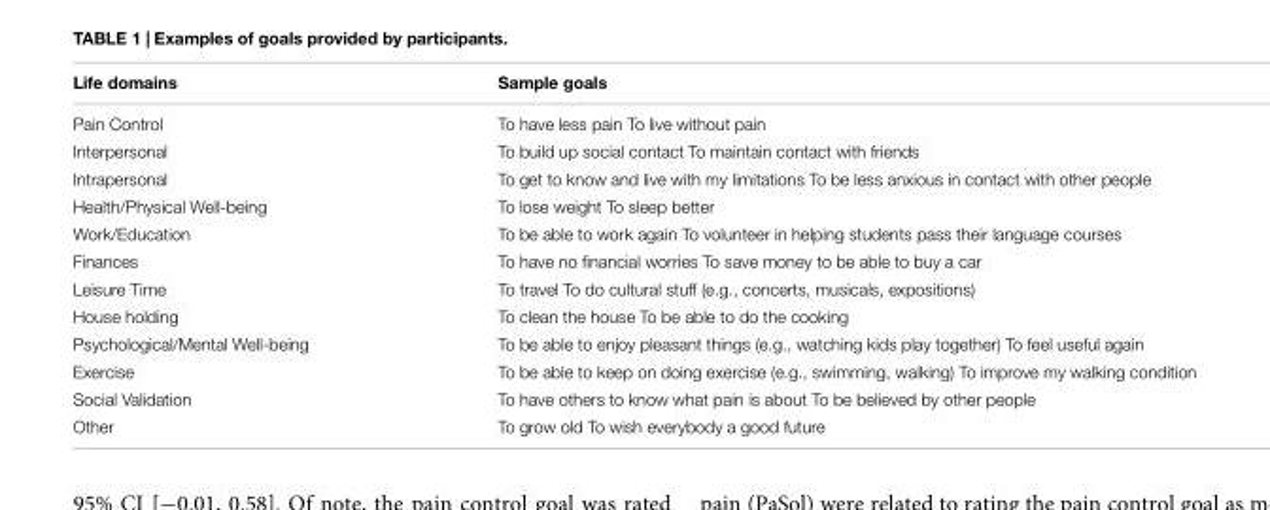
<table><thead><tr><td>Life domains</td><td>Sample goals</td></tr></thead><tbody><tr><td>Pain Control</td><td>To have less pain To live without pain</td></tr><tr><td>Interpersonal</td><td>To build up social contact To maintain contact with friends</td></tr><tr><td>Intrapersonal</td><td>To get to know and live with my limitations To be less anxious in contact with other people</td></tr><tr><td>Health/Physical Well-being</td><td>To lose weight To sleep better</td></tr><tr><td>Work/Education</td><td>To be able to work again To volunteer in helping students pass their language courses</td></tr><tr><td>Finances</td><td>To have no financial worries To save money to be able to buy a car</td></tr><tr><td>Leisure Time</td><td>To travel To do cultural stuff (e.g., concerts, musicals, expositions)</td></tr><tr><td>House holding</td><td>To clean the house To be able to do the cooking</td></tr><tr><td>Psychological/Mental Well-being</td><td>To be able to enjoy pleasant things (e.g., watching kids play together) To feel useful again</td></tr><tr><td>Exercise</td><td>To be able to keep on doing exercise (e.g., swimming, walking) To improve my walking condition</td></tr><tr><td>Social Validation</td><td>To have others to know what pain is about To be believed by other people</td></tr><tr><td>Other</td><td>To grow old To wish everybody a good future</td></tr></tbody></table>